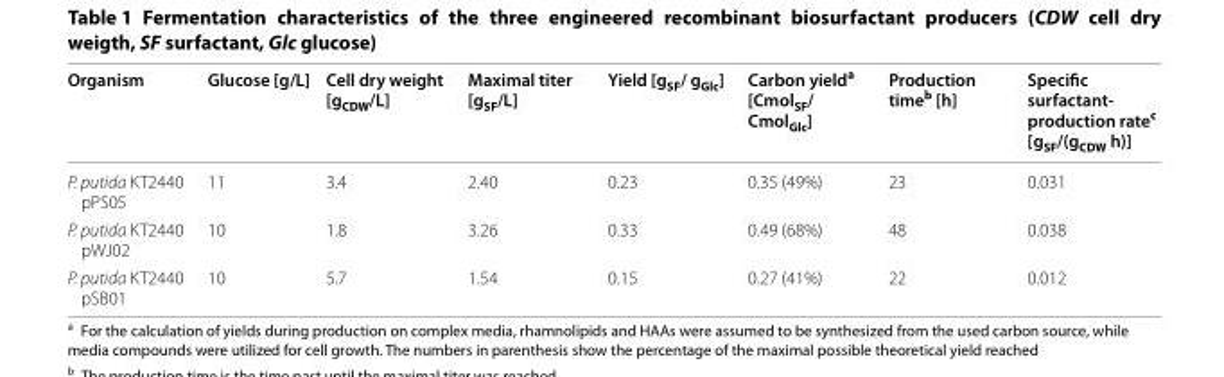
<table><thead><tr><td>Organism</td><td>Glucose [g/L]</td><td>Cell dry weight [g<sub>CDW</sub>/L]</td><td>Maximal titer [g<sub>SF</sub>/L]</td><td>Yield [g<sub>SF</sub>/ g<sub>Glc</sub>]</td><td>Carbon yield<sup>a</sup> [Cmol<sub>SF</sub>/ Cmol<sub>Glc</sub>]</td><td>Production time<sup>b</sup> [h]</td><td>Specific surfactant- production rate<sup>c</sup> [g<sub>SF</sub>/(g<sub>CDW</sub> h)]</td></tr></thead><tbody><tr><td>P. putida KT2440 pPS05</td><td>11</td><td>3.4</td><td>2.40</td><td>0.23</td><td>0.35 (49%)</td><td>23</td><td>0.031</td></tr><tr><td>P. putida KT2440 pWJ02</td><td>10</td><td>1.8</td><td>3.26</td><td>0.33</td><td>0.49 (68%)</td><td>48</td><td>0.038</td></tr><tr><td>P. putida KT2440 pSB01</td><td>10</td><td>5.7</td><td>1.54</td><td>0.15</td><td>0.27 (41%)</td><td>22</td><td>0.012</td></tr></tbody></table>